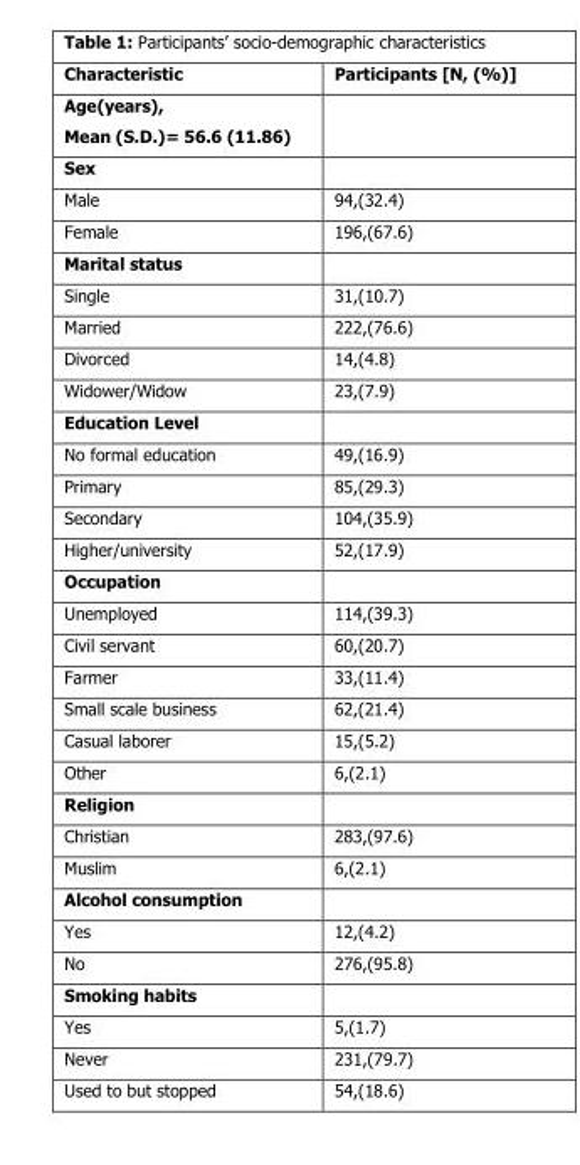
<table><thead><tr><td>Characteristic</td><td>Participants [N, (%)]</td></tr></thead><tbody><tr><td colspan="2">Age(years), Mean (S.D.)= 56.6 (11.86)</td></tr><tr><td colspan="2">Sex</td></tr><tr><td>Male</td><td>94,(32.4)</td></tr><tr><td>Female</td><td>196,(67.6)</td></tr><tr><td colspan="2">Marital status</td></tr><tr><td>Single</td><td>31,(10.7)</td></tr><tr><td>Married</td><td>222,(76.6)</td></tr><tr><td>Divorced</td><td>14,(4.8)</td></tr><tr><td>Widower/Widow</td><td>23,(7.9)</td></tr><tr><td colspan="2">Education Level</td></tr><tr><td>No formal education</td><td>49,(16.9)</td></tr><tr><td>Primary</td><td>85,(29.3)</td></tr><tr><td>Secondary</td><td>104,(35.9)</td></tr><tr><td>Higher/university</td><td>52,(17.9)</td></tr><tr><td colspan="2">Occupation</td></tr><tr><td>Unemployed</td><td>114,(39.3)</td></tr><tr><td>Civil servant</td><td>60,(20.7)</td></tr><tr><td>Farmer</td><td>33,(11.4)</td></tr><tr><td>Small scale business</td><td>62,(21.4)</td></tr><tr><td>Casual laborer</td><td>15,(5.2)</td></tr><tr><td>Other</td><td>6,(2.1)</td></tr><tr><td colspan="2">Religion</td></tr><tr><td>Christian</td><td>283,(97.6)</td></tr><tr><td>Muslim</td><td>6,(2.1)</td></tr><tr><td colspan="2">Alcohol consumption</td></tr><tr><td>Yes</td><td>12,(4.2)</td></tr><tr><td>No</td><td>276,(95.8)</td></tr><tr><td colspan="2">Smoking habits</td></tr><tr><td>Yes</td><td>5,(1.7)</td></tr><tr><td>Never</td><td>231,(79.7)</td></tr><tr><td>Used to but stopped</td><td>54,(18.6)</td></tr></tbody></table>